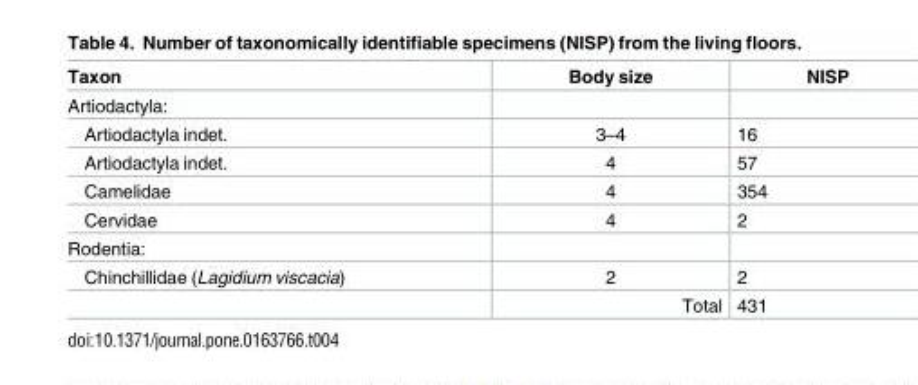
<table><thead><tr><td>Taxon</td><td>Body size</td><td>NISP</td></tr></thead><tbody><tr><td colspan="3">Artiodactyla:</td></tr><tr><td>Artiodactyla indet.</td><td>3–4</td><td>16</td></tr><tr><td>Artiodactyla indet.</td><td>4</td><td>57</td></tr><tr><td>Camelidae</td><td>4</td><td>354</td></tr><tr><td>Cervidae</td><td>4</td><td>2</td></tr><tr><td colspan="3">Rodentia:</td></tr><tr><td rowspan="2">Chinchillidae (Lagidium viscacia)</td><td>2</td><td>2</td></tr><tr><td>Total</td><td>431</td></tr></tbody></table>